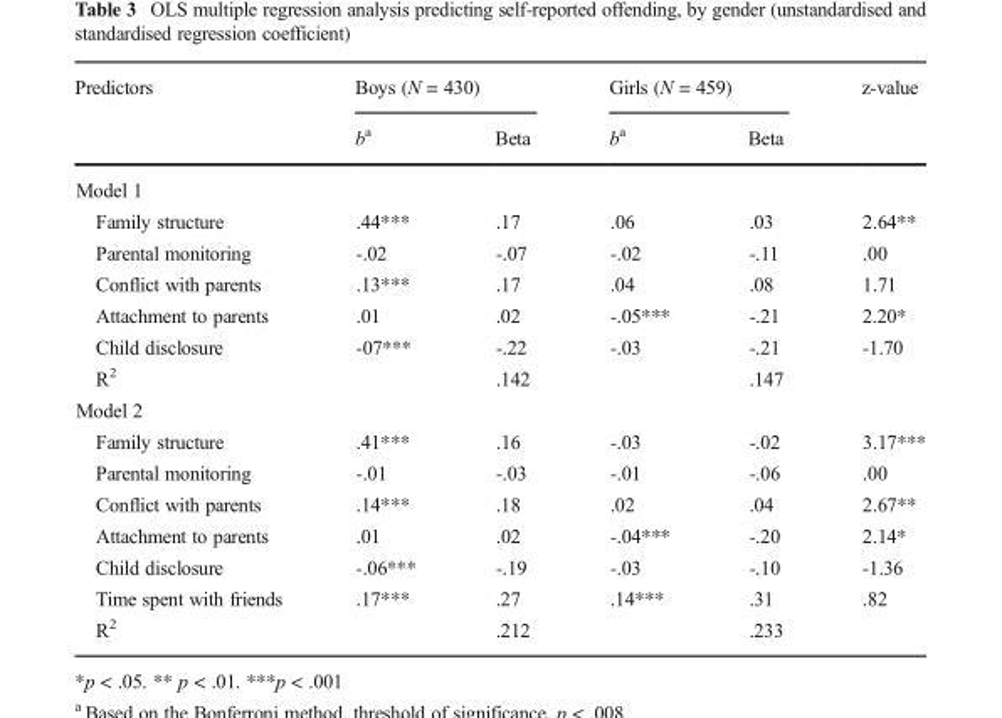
<table><thead><tr><td rowspan="2">Predictors</td><td colspan="2">Boys (N = 430)</td><td colspan="2">Girls (N = 459)</td><td rowspan="2">z-value</td></tr><tr><td>b<sup>a</sup></td><td>Beta</td><td>b<sup>a</sup></td><td>Beta</td></tr></thead><tbody><tr><td colspan="6">Model 1</td></tr><tr><td>Family structure</td><td>.44***</td><td>.17</td><td>.06</td><td>.03</td><td>2.64**</td></tr><tr><td>Parental monitoring</td><td>-.02</td><td>-.07</td><td>-.02</td><td>-.11</td><td>.00</td></tr><tr><td>Conflict with parents</td><td>.13***</td><td>.17</td><td>.04</td><td>.08</td><td>1.71</td></tr><tr><td>Attachment to parents</td><td>.01</td><td>.02</td><td>-.05***</td><td>-.21</td><td>2.20*</td></tr><tr><td>Child disclosure</td><td>-07***</td><td>-.22</td><td>-.03</td><td>-.21</td><td>-1.70</td></tr><tr><td>R<sup>2</sup></td><td></td><td>.142</td><td></td><td>.147</td><td></td></tr><tr><td colspan="6">Model 2</td></tr><tr><td>Family structure</td><td>.41***</td><td>.16</td><td>-.03</td><td>-.02</td><td>3.17***</td></tr><tr><td>Parental monitoring</td><td>-.01</td><td>-.03</td><td>-.01</td><td>-.06</td><td>.00</td></tr><tr><td>Conflict with parents</td><td>.14***</td><td>.18</td><td>.02</td><td>.04</td><td>2.67**</td></tr><tr><td>Attachment to parents</td><td>.01</td><td>.02</td><td>-.04***</td><td>-.20</td><td>2.14*</td></tr><tr><td>Child disclosure</td><td>-.06***</td><td>-.19</td><td>-.03</td><td>-.10</td><td>-1.36</td></tr><tr><td>Time spent with friends</td><td>.17***</td><td>.27</td><td>.14***</td><td>.31</td><td>.82</td></tr><tr><td>R<sup>2</sup></td><td></td><td>.212</td><td></td><td>.233</td><td></td></tr></tbody></table>